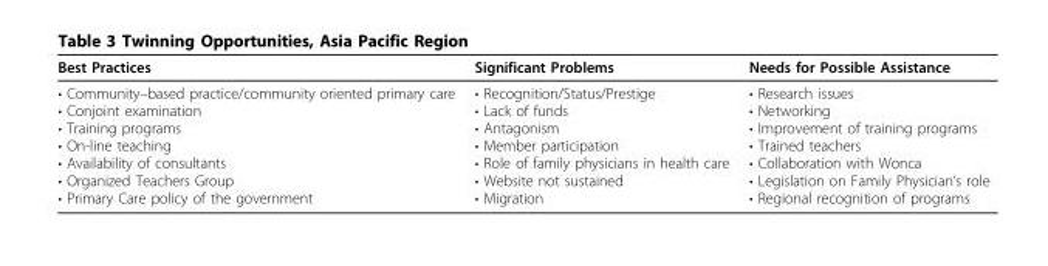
<table><thead><tr><td>Best Practices</td><td>Significant Problems</td><td>Needs for Possible Assistance</td></tr></thead><tbody><tr><td>• Community–based practice/community oriented primary care • Conjoint examination • Training programs • On-line teaching • Availability of consultants • Organized Teachers Group • Primary Care policy of the government</td><td>• Recognition/Status/Prestige • Lack of funds • Antagonism • Member participation • Role of family physicians in health care • Website not sustained • Migration</td><td>• Research issues • Networking • Improvement of training programs • Trained teachers • Collaboration with Wonca • Legislation on Family Physician’s role • Regional recognition of programs</td></tr></tbody></table>